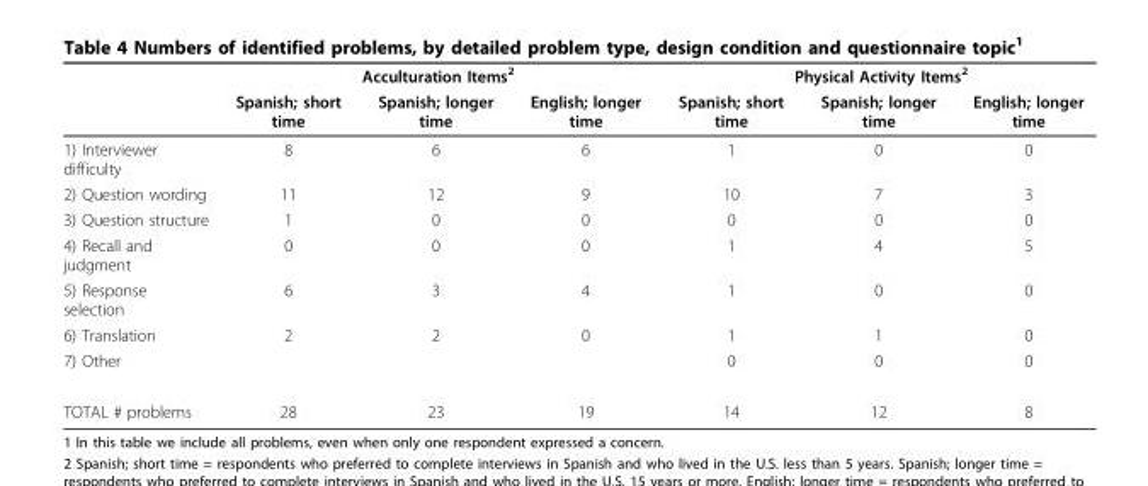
<table><thead><tr><td rowspan="2"></td><td colspan="3">Acculturation Items<sup>2</sup></td><td colspan="3">Physical Activity Items<sup>2</sup></td></tr><tr><td>Spanish; short time</td><td>Spanish; longer time</td><td>English; longer time</td><td>Spanish; short time</td><td>Spanish; longer time</td><td>English; longer time</td></tr></thead><tbody><tr><td>1) Interviewer difficulty</td><td>8</td><td>6</td><td>6</td><td>1</td><td>0</td><td>0</td></tr><tr><td>2) Question wording</td><td>11</td><td>12</td><td>9</td><td>10</td><td>7</td><td>3</td></tr><tr><td>3) Question structure</td><td>1</td><td>0</td><td>0</td><td>0</td><td>0</td><td>0</td></tr><tr><td>4) Recall and judgment</td><td>0</td><td>0</td><td>0</td><td>1</td><td>4</td><td>5</td></tr><tr><td>5) Response selection</td><td>6</td><td>3</td><td>4</td><td>1</td><td>0</td><td>0</td></tr><tr><td>6) Translation</td><td>2</td><td>2</td><td>0</td><td>1</td><td>1</td><td>0</td></tr><tr><td>7) Other</td><td></td><td></td><td></td><td>0</td><td>0</td><td>0</td></tr><tr><td>TOTAL # problems</td><td>28</td><td>23</td><td>19</td><td>14</td><td>12</td><td>8</td></tr></tbody></table>